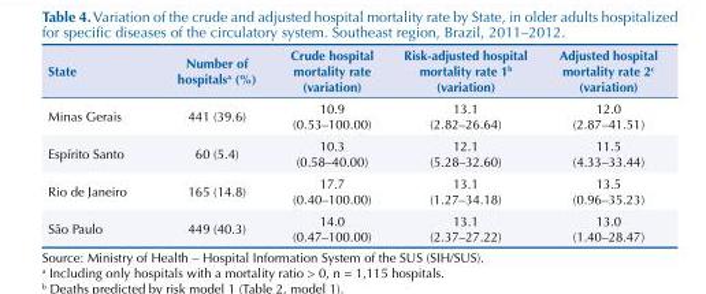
<table><thead><tr><td>State</td><td>Number of hospitals<sup>a</sup> (%)</td><td>Crude hospital mortality rate (variation)</td><td>Risk-adjusted hospital mortality rate 1<sup>b</sup> (variation)</td><td>Adjusted hospital mortality rate 2<sup>c</sup> (variation)</td></tr></thead><tbody><tr><td>Minas Gerais</td><td>441 (39.6)</td><td>10.9 (0.53–100.00)</td><td>13.1 (2.82–26.64)</td><td>12.0 (2.87–41.51)</td></tr><tr><td>Espírito Santo</td><td>60 (5.4)</td><td>10.3 (0.58–40.00)</td><td>12.1 (5.28–32.60)</td><td>11.5 (4.33–33.44)</td></tr><tr><td>Rio de Janeiro</td><td>165 (14.8)</td><td>17.7 (0.40–100.00)</td><td>13.1 (1.27–34.18)</td><td>13.5 (0.96–35.23)</td></tr><tr><td>São Paulo</td><td>449 (40.3)</td><td>14.0 (0.47–100.00)</td><td>13.1 (2.37–27.22)</td><td>13.0 (1.40–28.47)</td></tr></tbody></table>